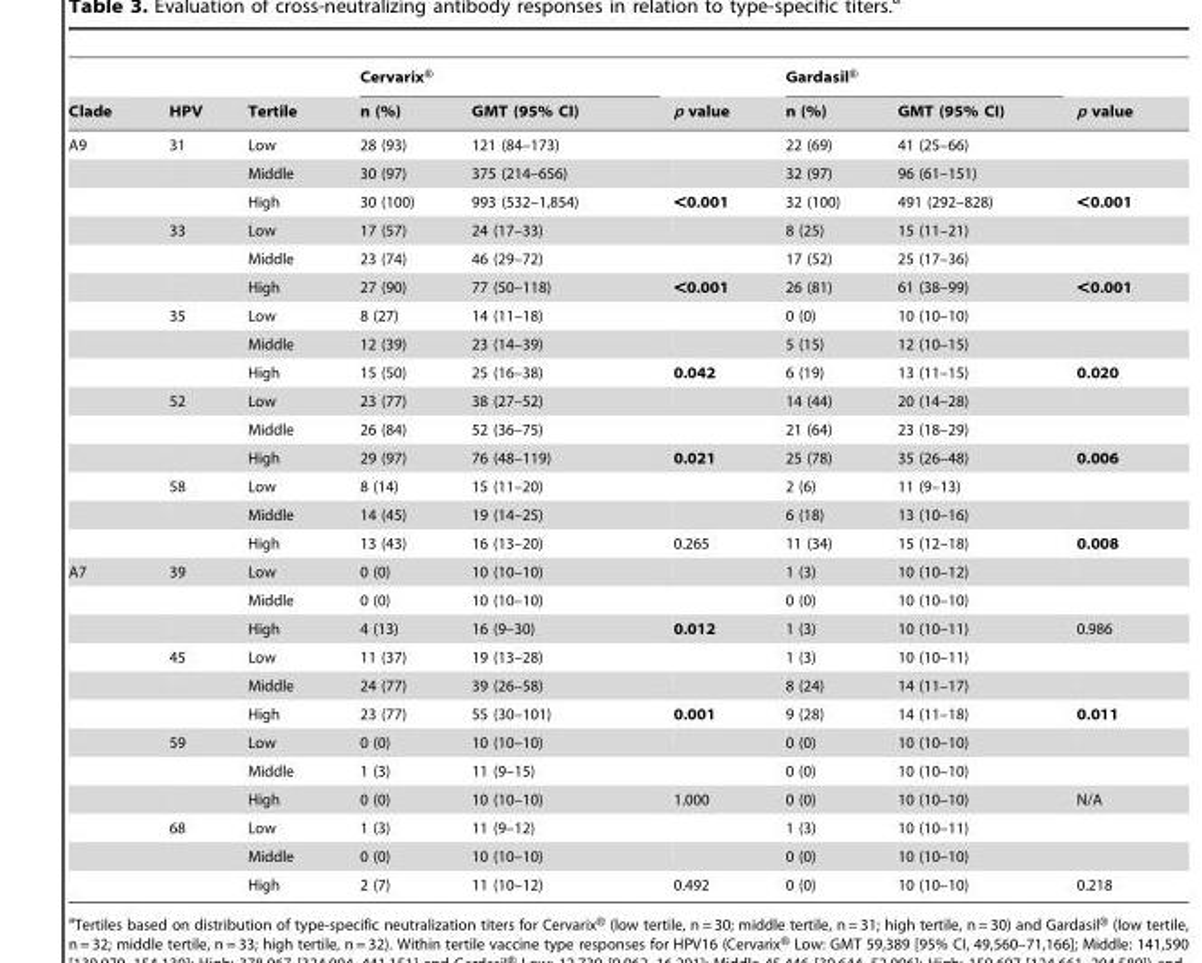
<table><thead><tr><td rowspan="2">Clade</td><td rowspan="2">HPV</td><td rowspan="2">Tertile</td><td colspan="2">Cervarix®</td><td rowspan="2">p value</td><td colspan="2">Gardasil®</td><td rowspan="2">p value</td></tr><tr><td>n (%)</td><td>GMT (95% CI)</td><td>n (%)</td><td>GMT (95% CI)</td></tr></thead><tbody><tr><td rowspan="15">A9</td><td>31</td><td>Low</td><td>28 (93)</td><td>121 (84–173)</td><td></td><td>22 (69)</td><td>41 (25–66)</td><td></td></tr><tr><td></td><td>Middle</td><td>30 (97)</td><td>375 (214–656)</td><td></td><td>32 (97)</td><td>96 (61–151)</td><td></td></tr><tr><td></td><td>High</td><td>30 (100)</td><td>993 (532–1,854)</td><td>&lt;0.001</td><td>32 (100)</td><td>491 (292–828)</td><td>&lt;0.001</td></tr><tr><td>33</td><td>Low</td><td>17 (57)</td><td>24 (17–33)</td><td></td><td>8 (25)</td><td>15 (11–21)</td><td></td></tr><tr><td></td><td>Middle</td><td>23 (74)</td><td>46 (29–72)</td><td></td><td>17 (52)</td><td>25 (17–36)</td><td></td></tr><tr><td></td><td>High</td><td>27 (90)</td><td>77 (50–118)</td><td>&lt;0.001</td><td>26 (81)</td><td>61 (38–99)</td><td>&lt;0.001</td></tr><tr><td>35</td><td>Low</td><td>8 (27)</td><td>14 (11–18)</td><td></td><td>0 (0)</td><td>10 (10–10)</td><td></td></tr><tr><td></td><td>Middle</td><td>12 (39)</td><td>23 (14–39)</td><td></td><td>5 (15)</td><td>12 (10–15)</td><td></td></tr><tr><td></td><td>High</td><td>15 (50)</td><td>25 (16–38)</td><td>0.042</td><td>6 (19)</td><td>13 (11–15)</td><td>0.020</td></tr><tr><td>52</td><td>Low</td><td>23 (77)</td><td>38 (27–52)</td><td></td><td>14 (44)</td><td>20 (14–28)</td><td></td></tr><tr><td></td><td>Middle</td><td>26 (84)</td><td>52 (36–75)</td><td></td><td>21 (64)</td><td>23 (18–29)</td><td></td></tr><tr><td></td><td>High</td><td>29 (97)</td><td>76 (48–119)</td><td>0.021</td><td>25 (78)</td><td>35 (26–48)</td><td>0.006</td></tr><tr><td>58</td><td>Low</td><td>8 (14)</td><td>15 (11–20)</td><td></td><td>2 (6)</td><td>11 (9–13)</td><td></td></tr><tr><td></td><td>Middle</td><td>14 (45)</td><td>19 (14–25)</td><td></td><td>6 (18)</td><td>13 (10–16)</td><td></td></tr><tr><td></td><td>High</td><td>13 (43)</td><td>16 (13–20)</td><td>0.265</td><td>11 (34)</td><td>15 (12–18)</td><td>0.008</td></tr><tr><td rowspan="12">A7</td><td>39</td><td>Low</td><td>0 (0)</td><td>10 (10–10)</td><td></td><td>1 (3)</td><td>10 (10–12)</td><td></td></tr><tr><td></td><td>Middle</td><td>0 (0)</td><td>10 (10–10)</td><td></td><td>0 (0)</td><td>10 (10–10)</td><td></td></tr><tr><td></td><td>High</td><td>4 (13)</td><td>16 (9–30)</td><td>0.012</td><td>1 (3)</td><td>10 (10–11)</td><td>0.986</td></tr><tr><td>45</td><td>Low</td><td>11 (37)</td><td>19 (13–28)</td><td></td><td>1 (3)</td><td>10 (10–11)</td><td></td></tr><tr><td></td><td>Middle</td><td>24 (77)</td><td>39 (26–58)</td><td></td><td>8 (24)</td><td>14 (11–17)</td><td></td></tr><tr><td></td><td>High</td><td>23 (77)</td><td>55 (30–101)</td><td>0.001</td><td>9 (28)</td><td>14 (11–18)</td><td>0.011</td></tr><tr><td>59</td><td>Low</td><td>0 (0)</td><td>10 (10–10)</td><td></td><td>0 (0)</td><td>10 (10–10)</td><td></td></tr><tr><td></td><td>Middle</td><td>1 (3)</td><td>11 (9–15)</td><td></td><td>0 (0)</td><td>10 (10–10)</td><td></td></tr><tr><td></td><td>High</td><td>0 (0)</td><td>10 (10–10)</td><td>1.000</td><td>0 (0)</td><td>10 (10–10)</td><td>N/A</td></tr><tr><td>68</td><td>Low</td><td>1 (3)</td><td>11 (9–12)</td><td></td><td>1 (3)</td><td>10 (10–11)</td><td></td></tr><tr><td></td><td>Middle</td><td>0 (0)</td><td>10 (10–10)</td><td></td><td>0 (0)</td><td>10 (10–10)</td><td></td></tr><tr><td></td><td>High</td><td>2 (7)</td><td>11 (10–12)</td><td>0.492</td><td>0 (0)</td><td>10 (10–10)</td><td>0.218</td></tr></tbody></table>